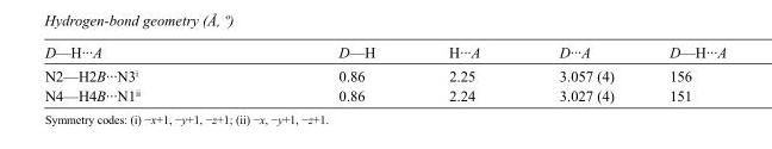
<table><tbody><tr><td>D—H···A</td><td>D—H</td><td>H···A</td><td>D···A</td><td>D—H···A</td></tr><tr><td>N2—H2B···N3<sup>i</sup></td><td>0.86</td><td>2.25</td><td>3.057 (4)</td><td>156</td></tr><tr><td>N4—H4B···N1<sup>ii</sup></td><td>0.86</td><td>2.24</td><td>3.027 (4)</td><td>151</td></tr></tbody></table>